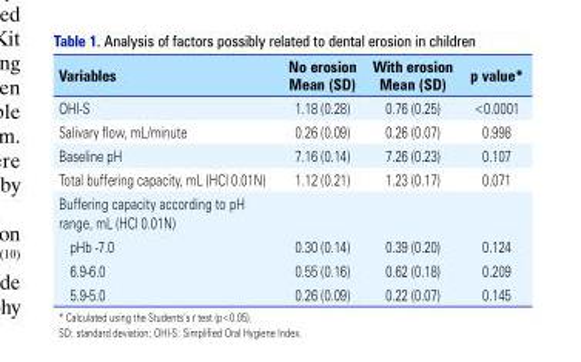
<table><thead><tr><td>Variables</td><td>No erosion Mean (SD)</td><td>With erosion Mean (SD)</td><td>p value*</td></tr></thead><tbody><tr><td>OHI-S</td><td>1.18 (0.28)</td><td>0.76 (0.25)</td><td>&lt;0.0001</td></tr><tr><td>Salivary flow, mL/minute</td><td>0.26 (0.09)</td><td>0.26 (0.07)</td><td>0.998</td></tr><tr><td>Baseline pH</td><td>7.16 (0.14)</td><td>7.26 (0.23)</td><td>0.107</td></tr><tr><td>Total buffering capacity, mL (HCl 0.01N)</td><td>1.12 (0.21)</td><td>1.23 (0.17)</td><td>0.071</td></tr><tr><td colspan="4">Buffering capacity according to pH range, mL (HCl 0.01N)</td></tr><tr><td>pHb -7.0</td><td>0.30 (0.14)</td><td>0.39 (0.20)</td><td>0.124</td></tr><tr><td>6.9-6.0</td><td>0.55 (0.16)</td><td>0.62 (0.18)</td><td>0.209</td></tr><tr><td>5.9-5.0</td><td>0.26 (0.09)</td><td>0.22 (0.07)</td><td>0.145</td></tr></tbody></table>